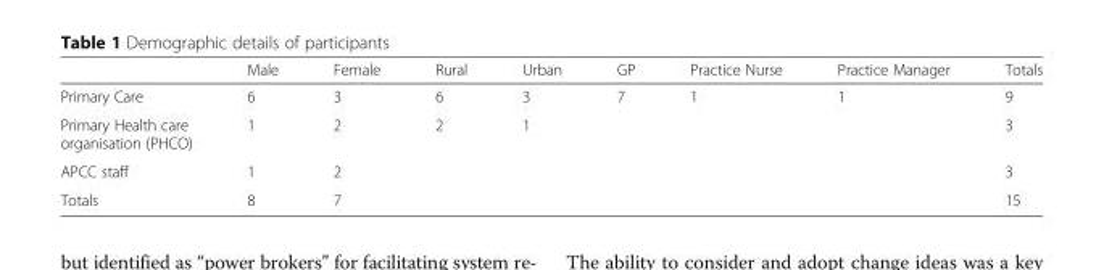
<table><thead><tr><td></td><td>Male</td><td>Female</td><td>Rural</td><td>Urban</td><td>GP</td><td>Practice Nurse</td><td>Practice Manager</td><td>Totals</td></tr></thead><tbody><tr><td>Primary Care</td><td>6</td><td>3</td><td>6</td><td>3</td><td>7</td><td>1</td><td>1</td><td>9</td></tr><tr><td>Primary Health care organisation (PHCO)</td><td>1</td><td>2</td><td>2</td><td>1</td><td></td><td></td><td></td><td>3</td></tr><tr><td>APCC staff</td><td>1</td><td>2</td><td></td><td></td><td></td><td></td><td></td><td>3</td></tr><tr><td>Totals</td><td>8</td><td>7</td><td></td><td></td><td></td><td></td><td></td><td>15</td></tr></tbody></table>